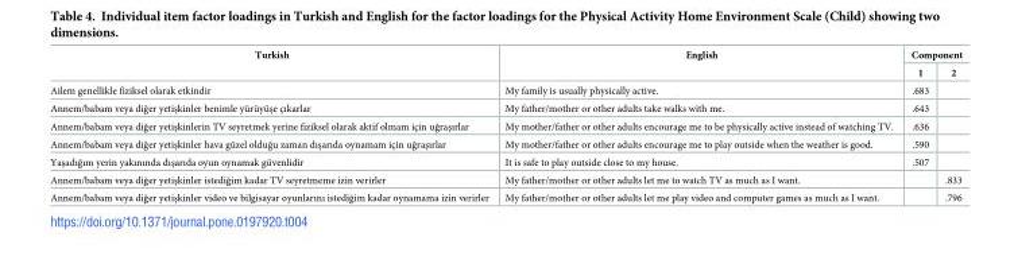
<table><thead><tr><td rowspan="2">Turkish</td><td rowspan="2">English</td><td colspan="2">Component</td></tr><tr><td>1</td><td>2</td></tr></thead><tbody><tr><td>Ailem genellikle fiziksel olarak etkindir</td><td>My family is usually physically active.</td><td>.683</td><td></td></tr><tr><td>Annem/babam veya diğer yetişkinler benimle yu¨ru¨yu¨şe c¸ıkarlar</td><td>My father/mother or other adults take walks with me.</td><td>.643</td><td></td></tr><tr><td>Annem/babam veya diğer yetişkinlerin TV seyretmek yerine fiziksel olarak aktif olmam ic¸in uğraşırlar</td><td>My mother/father or other adults encourage me to be physically active instead of watching TV.</td><td>.636</td><td></td></tr><tr><td>Annem/babam veya diğer yetişkinler hava gu¨zel olduğu zaman dışarıda oynamam ic¸in uğraşırlar</td><td>My mother/father or other adults encourage me to play outside when the weather is good.</td><td>.590</td><td></td></tr><tr><td>Yaşadığım yerin yakınında dışarıda oyun oynamak gu¨venlidir</td><td>It is safe to play outside close to my house.</td><td>.507</td><td></td></tr><tr><td>Annem/babam veya diğer yetişkinler istediğim kadar TV seyretmeme izin verirler</td><td>My father/mother or other adults let me to watch TV as much as I want.</td><td></td><td>.833</td></tr><tr><td>Annem/babam veya diğer yetişkinler video ve bilgisayar oyunlarını istediğim kadar oynamama izin verirler</td><td>My father/mother or other adults let me play video and computer games as much as I want.</td><td></td><td>.796</td></tr></tbody></table>